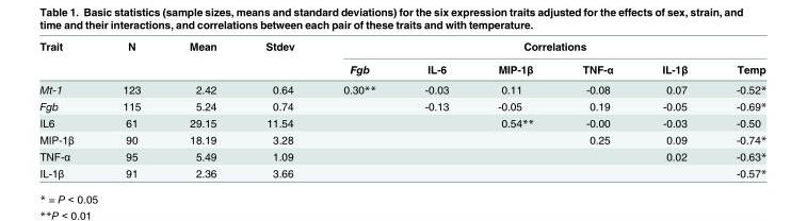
<table><thead><tr><td rowspan="2">Trait</td><td rowspan="2">N</td><td rowspan="2">Mean</td><td rowspan="2">Stdev</td><td colspan="6">Correlations</td></tr><tr><td>Fgb</td><td>IL-6</td><td>MIP-1β</td><td>TNF-α</td><td>IL-1β</td><td>Temp</td></tr></thead><tbody><tr><td>Mt-1</td><td>123</td><td>2.42</td><td>0.64</td><td>0.30**</td><td>-0.03</td><td>0.11</td><td>-0.08</td><td>0.07</td><td>-0.52*</td></tr><tr><td>Fgb</td><td>115</td><td>5.24</td><td>0.74</td><td></td><td>-0.13</td><td>-0.05</td><td>0.19</td><td>-0.05</td><td>-0.69*</td></tr><tr><td>IL6</td><td>61</td><td>29.15</td><td>11.54</td><td></td><td></td><td>0.54**</td><td>-0.00</td><td>-0.03</td><td>-0.50</td></tr><tr><td>MIP-1β</td><td>90</td><td>18.19</td><td>3.28</td><td></td><td></td><td></td><td>0.25</td><td>0.09</td><td>-0.74*</td></tr><tr><td>TNF-α</td><td>95</td><td>5.49</td><td>1.09</td><td></td><td></td><td></td><td></td><td>0.02</td><td>-0.63*</td></tr><tr><td>IL-1β</td><td>91</td><td>2.36</td><td>3.66</td><td></td><td></td><td></td><td></td><td></td><td>-0.57*</td></tr></tbody></table>